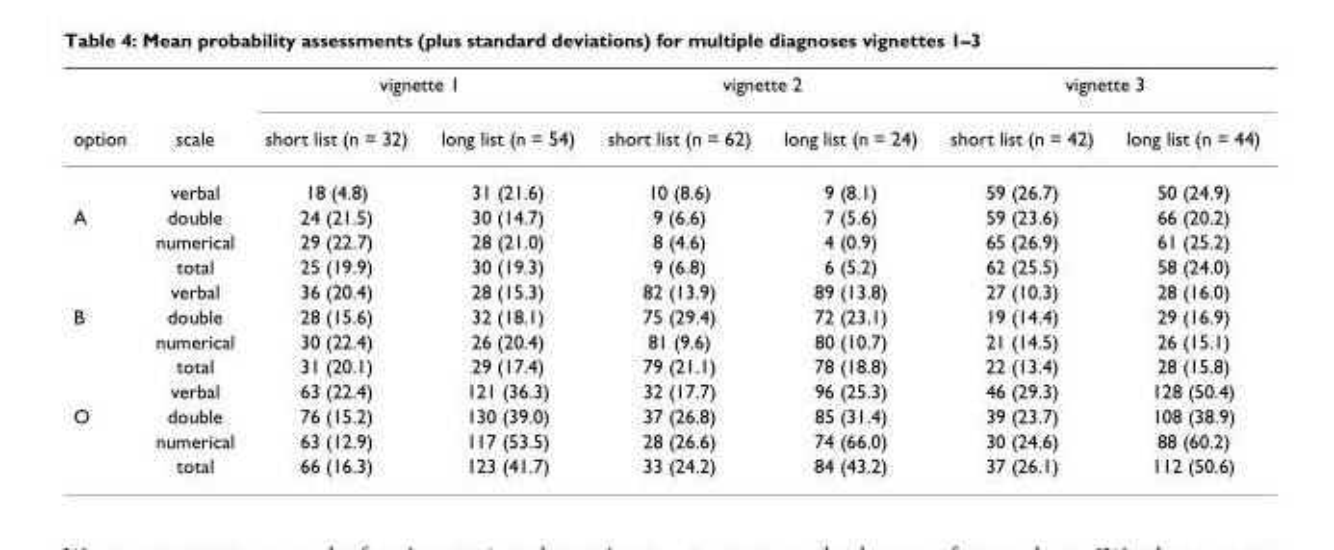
<table><thead><tr><td rowspan="2">option</td><td rowspan="2">scale</td><td colspan="2">vignette 1</td><td colspan="2">vignette 2</td><td colspan="2">vignette 3</td></tr><tr><td>short list (n = 32)</td><td>long list (n = 54)</td><td>short list (n = 62)</td><td>long list (n = 24)</td><td>short list (n = 42)</td><td>long list (n = 44)</td></tr></thead><tbody><tr><td></td><td>verbal</td><td>18 (4.8)</td><td>31 (21.6)</td><td>10 (8.6)</td><td>9 (8.1)</td><td>59 (26.7)</td><td>50 (24.9)</td></tr><tr><td rowspan="4">A</td><td>double</td><td>24 (21.5)</td><td>30 (14.7)</td><td>9 (6.6)</td><td>7 (5.6)</td><td>59 (23.6)</td><td>66 (20.2)</td></tr><tr><td>numerical</td><td>29 (22.7)</td><td>28 (21.0)</td><td>8 (4.6)</td><td>4 (0.9)</td><td>65 (26.9)</td><td>61 (25.2)</td></tr><tr><td>total</td><td>25 (19.9)</td><td>30 (19.3)</td><td>9 (6.8)</td><td>6 (5.2)</td><td>62 (25.5)</td><td>58 (24.0)</td></tr><tr><td>verbal</td><td>36 (20.4)</td><td>28 (15.3)</td><td>82 (13.9)</td><td>89 (13.8)</td><td>27 (10.3)</td><td>28 (16.0)</td></tr><tr><td rowspan="4">B</td><td>double</td><td>28 (15.6)</td><td>32 (18.1)</td><td>75 (29.4)</td><td>72 (23.1)</td><td>19 (14.4)</td><td>29 (16.9)</td></tr><tr><td>numerical</td><td>30 (22.4)</td><td>26 (20.4)</td><td>81 (9.6)</td><td>80 (10.7)</td><td>21 (14.5)</td><td>26 (15.1)</td></tr><tr><td>total</td><td>31 (20.1)</td><td>29 (17.4)</td><td>79 (21.1)</td><td>78 (18.8)</td><td>22 (13.4)</td><td>28 (15.8)</td></tr><tr><td>verbal</td><td>63 (22.4)</td><td>121 (36.3)</td><td>32 (17.7)</td><td>96 (25.3)</td><td>46 (29.3)</td><td>128 (50.4)</td></tr><tr><td rowspan="3">O</td><td>double</td><td>76 (15.2)</td><td>130 (39.0)</td><td>37 (26.8)</td><td>85 (31.4)</td><td>39 (23.7)</td><td>108 (38.9)</td></tr><tr><td>numerical</td><td>63 (12.9)</td><td>117 (53.5)</td><td>28 (26.6)</td><td>74 (66.0)</td><td>30 (24.6)</td><td>88 (60.2)</td></tr><tr><td>total</td><td>66 (16.3)</td><td>123 (41.7)</td><td>33 (24.2)</td><td>84 (43.2)</td><td>37 (26.1)</td><td>112 (50.6)</td></tr></tbody></table>